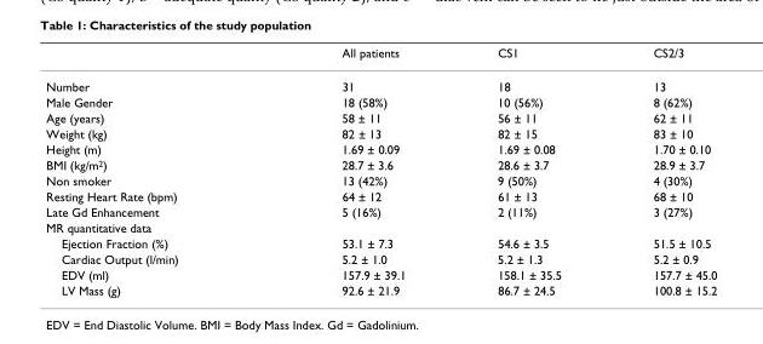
<table><thead><tr><td></td><td>All patients</td><td>CS1</td><td>CS2/3</td></tr></thead><tbody><tr><td>Number</td><td>31</td><td>18</td><td>13</td></tr><tr><td>Male Gender</td><td>18 (58%)</td><td>10 (56%)</td><td>8 (62%)</td></tr><tr><td>Age (years)</td><td>58 ± 11</td><td>56 ± 11</td><td>62 ± 11</td></tr><tr><td>Weight (kg)</td><td>82 ± 13</td><td>82 ± 15</td><td>83 ± 10</td></tr><tr><td>Height (m)</td><td>1.69 ± 0.09</td><td>1.69 ± 0.08</td><td>1.70 ± 0.10</td></tr><tr><td>BMI (kg/m<sup>2</sup>)</td><td>28.7 ± 3.6</td><td>28.6 ± 3.7</td><td>28.9 ± 3.7</td></tr><tr><td>Non smoker</td><td>13 (42%)</td><td>9 (50%)</td><td>4 (30%)</td></tr><tr><td>Resting Heart Rate (bpm)</td><td>64 ± 12</td><td>61 ± 13</td><td>68 ± 10</td></tr><tr><td>Late Gd Enhancement</td><td>5 (16%)</td><td>2 (11%)</td><td>3 (27%)</td></tr><tr><td colspan="4">MR quantitative data</td></tr><tr><td>Ejection Fraction (%)</td><td>53.1 ± 7.3</td><td>54.6 ± 3.5</td><td>51.5 ± 10.5</td></tr><tr><td>Cardiac Output (l/min)</td><td>5.2 ± 1.0</td><td>5.2 ± 1.3</td><td>5.2 ± 0.9</td></tr><tr><td>EDV (ml)</td><td>157.9 ± 39.1</td><td>158.1 ± 35.5</td><td>157.7 ± 45.0</td></tr><tr><td>LV Mass (g)</td><td>92.6 ± 21.9</td><td>86.7 ± 24.5</td><td>100.8 ± 15.2</td></tr></tbody></table>